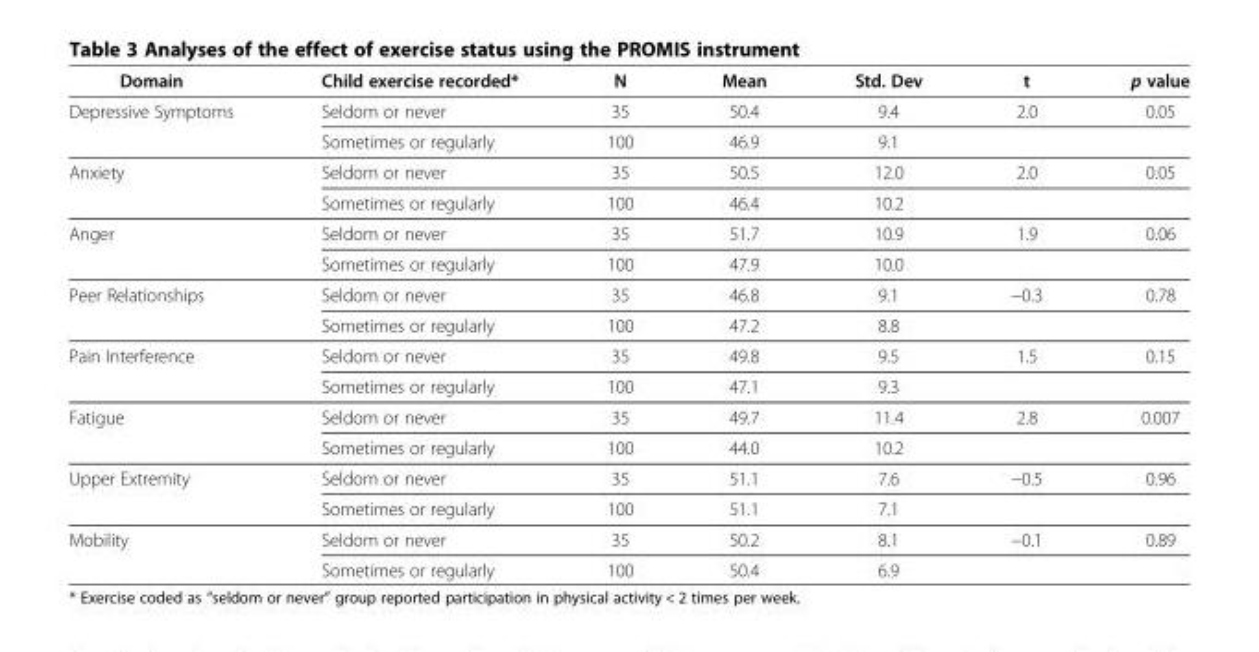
<table><thead><tr><td>Domain</td><td>Child exercise recorded*</td><td>N</td><td>Mean</td><td>Std. Dev</td><td>t</td><td>p value</td></tr></thead><tbody><tr><td rowspan="2">Depressive Symptoms</td><td>Seldom or never</td><td>35</td><td>50.4</td><td>9.4</td><td>2.0</td><td>0.05</td></tr><tr><td>Sometimes or regularly</td><td>100</td><td>46.9</td><td>9.1</td><td></td><td></td></tr><tr><td rowspan="2">Anxiety</td><td>Seldom or never</td><td>35</td><td>50.5</td><td>12.0</td><td>2.0</td><td>0.05</td></tr><tr><td>Sometimes or regularly</td><td>100</td><td>46.4</td><td>10.2</td><td></td><td></td></tr><tr><td rowspan="2">Anger</td><td>Seldom or never</td><td>35</td><td>51.7</td><td>10.9</td><td>1.9</td><td>0.06</td></tr><tr><td>Sometimes or regularly</td><td>100</td><td>47.9</td><td>10.0</td><td></td><td></td></tr><tr><td rowspan="2">Peer Relationships</td><td>Seldom or never</td><td>35</td><td>46.8</td><td>9.1</td><td>−0.3</td><td>0.78</td></tr><tr><td>Sometimes or regularly</td><td>100</td><td>47.2</td><td>8.8</td><td></td><td></td></tr><tr><td rowspan="2">Pain Interference</td><td>Seldom or never</td><td>35</td><td>49.8</td><td>9.5</td><td>1.5</td><td>0.15</td></tr><tr><td>Sometimes or regularly</td><td>100</td><td>47.1</td><td>9.3</td><td></td><td></td></tr><tr><td rowspan="2">Fatigue</td><td>Seldom or never</td><td>35</td><td>49.7</td><td>11.4</td><td>2.8</td><td>0.007</td></tr><tr><td>Sometimes or regularly</td><td>100</td><td>44.0</td><td>10.2</td><td></td><td></td></tr><tr><td rowspan="2">Upper Extremity</td><td>Seldom or never</td><td>35</td><td>51.1</td><td>7.6</td><td>−0.5</td><td>0.96</td></tr><tr><td>Sometimes or regularly</td><td>100</td><td>51.1</td><td>7.1</td><td></td><td></td></tr><tr><td rowspan="2">Mobility</td><td>Seldom or never</td><td>35</td><td>50.2</td><td>8.1</td><td>−0.1</td><td>0.89</td></tr><tr><td>Sometimes or regularly</td><td>100</td><td>50.4</td><td>6.9</td><td></td><td></td></tr></tbody></table>